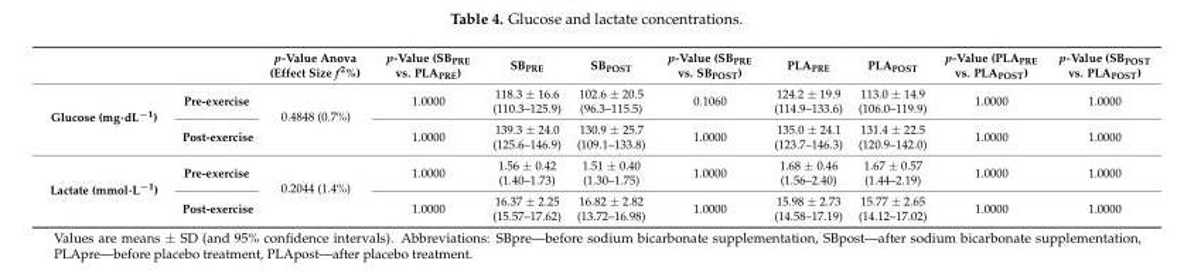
<table><thead><tr><td></td><td></td><td>p-Value Anova (Effect Size f<sup>2</sup>%)</td><td>p-Value (SB<sub>PRE</sub> vs. PLA<sub>PRE</sub>)</td><td>SB<sub>PRE</sub></td><td>SB<sub>POST</sub></td><td>p-Value (SB<sub>PRE</sub> vs. SB<sub>POST</sub>)</td><td>PLA<sub>PRE</sub></td><td>PLA<sub>POST</sub></td><td>p-Value (PLA<sub>PRE</sub> vs. PLA<sub>POST</sub>)</td><td>p-Value (SB<sub>POST</sub> vs. PLA<sub>POST</sub>)</td></tr></thead><tbody><tr><td rowspan="2">Glucose (mg·dL−1)</td><td>Pre-exercise</td><td rowspan="2">0.4848 (0.7%)</td><td>1.0000</td><td>118.3 ± 16.6 (110.3–125.9)</td><td>102.6 ± 20.5 (96.3–115.5)</td><td>0.1060</td><td>124.2 ± 19.9 (114.9–133.6)</td><td>113.0 ± 14.9 (106.0–119.9)</td><td>1.0000</td><td>1.0000</td></tr><tr><td>Post-exercise</td><td>1.0000</td><td>139.3 ± 24.0 (125.6–146.9)</td><td>130.9 ± 25.7 (109.1–133.8)</td><td>1.0000</td><td>135.0 ± 24.1 (123.7–146.3)</td><td>131.4 ± 22.5 (120.9–142.0)</td><td>1.0000</td><td>1.0000</td></tr><tr><td rowspan="2">Lactate (mmol·L−1)</td><td>Pre-exercise</td><td rowspan="2">0.2044 (1.4%)</td><td>1.0000</td><td>1.56 ± 0.42 (1.40–1.73)</td><td>1.51 ± 0.40 (1.30–1.75)</td><td>1.0000</td><td>1.68 ± 0.46 (1.56–2.40)</td><td>1.67 ± 0.57 (1.44–2.19)</td><td>1.0000</td><td>1.0000</td></tr><tr><td>Post-exercise</td><td>1.0000</td><td>16.37 ± 2.25 (15.57–17.62)</td><td>16.82 ± 2.82 (13.72–16.98)</td><td>1.0000</td><td>15.98 ± 2.73 (14.58–17.19)</td><td>15.77 ± 2.65 (14.12–17.02)</td><td>1.0000</td><td>1.0000</td></tr></tbody></table>